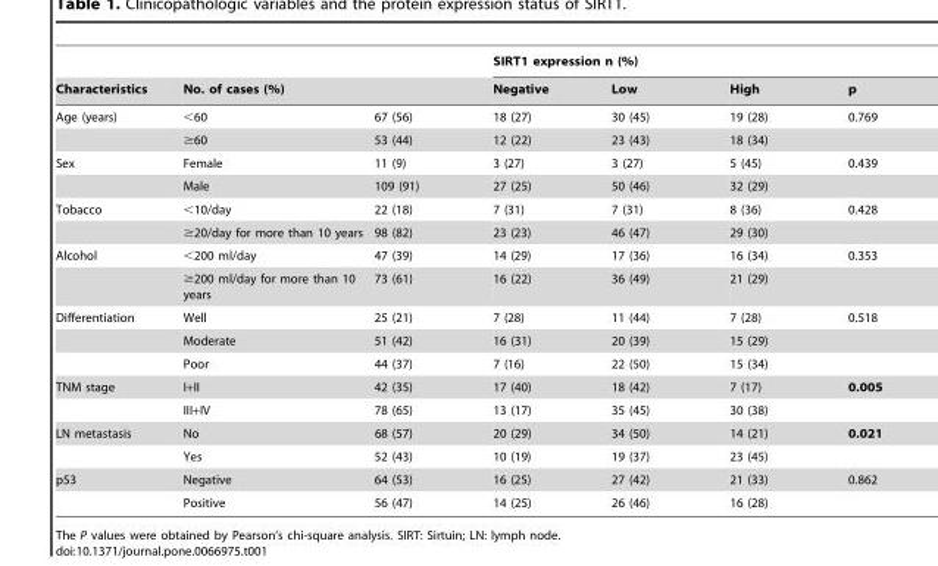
<table><thead><tr><td rowspan="2">Characteristics</td><td></td><td></td><td colspan="4">SIRT1 expression n (%)</td></tr><tr><td colspan="2">No. of cases (%)</td><td>Negative</td><td>Low</td><td>High</td><td>p</td></tr></thead><tbody><tr><td rowspan="2">Age (years)</td><td>&lt;60</td><td>67 (56)</td><td>18 (27)</td><td>30 (45)</td><td>19 (28)</td><td>0.769</td></tr><tr><td>≥60</td><td>53 (44)</td><td>12 (22)</td><td>23 (43)</td><td>18 (34)</td><td></td></tr><tr><td rowspan="2">Sex</td><td>Female</td><td>11 (9)</td><td>3 (27)</td><td>3 (27)</td><td>5 (45)</td><td>0.439</td></tr><tr><td>Male</td><td>109 (91)</td><td>27 (25)</td><td>50 (46)</td><td>32 (29)</td><td></td></tr><tr><td rowspan="2">Tobacco</td><td>&lt;10/day</td><td>22 (18)</td><td>7 (31)</td><td>7 (31)</td><td>8 (36)</td><td>0.428</td></tr><tr><td>≥20/day for more than 10 years</td><td>98 (82)</td><td>23 (23)</td><td>46 (47)</td><td>29 (30)</td><td></td></tr><tr><td rowspan="2">Alcohol</td><td>&lt;200 ml/day</td><td>47 (39)</td><td>14 (29)</td><td>17 (36)</td><td>16 (34)</td><td>0.353</td></tr><tr><td>≥200 ml/day for more than 10 years</td><td>73 (61)</td><td>16 (22)</td><td>36 (49)</td><td>21 (29)</td><td></td></tr><tr><td rowspan="3">Differentiation</td><td>Well</td><td>25 (21)</td><td>7 (28)</td><td>11 (44)</td><td>7 (28)</td><td>0.518</td></tr><tr><td>Moderate</td><td>51 (42)</td><td>16 (31)</td><td>20 (39)</td><td>15 (29)</td><td></td></tr><tr><td>Poor</td><td>44 (37)</td><td>7 (16)</td><td>22 (50)</td><td>15 (34)</td><td></td></tr><tr><td rowspan="2">TNM stage</td><td>I+II</td><td>42 (35)</td><td>17 (40)</td><td>18 (42)</td><td>7 (17)</td><td>0.005</td></tr><tr><td>III+IV</td><td>78 (65)</td><td>13 (17)</td><td>35 (45)</td><td>30 (38)</td><td></td></tr><tr><td rowspan="2">LN metastasis</td><td>No</td><td>68 (57)</td><td>20 (29)</td><td>34 (50)</td><td>14 (21)</td><td>0.021</td></tr><tr><td>Yes</td><td>52 (43)</td><td>10 (19)</td><td>19 (37)</td><td>23 (45)</td><td></td></tr><tr><td rowspan="2">p53</td><td>Negative</td><td>64 (53)</td><td>16 (25)</td><td>27 (42)</td><td>21 (33)</td><td>0.862</td></tr><tr><td>Positive</td><td>56 (47)</td><td>14 (25)</td><td>26 (46)</td><td>16 (28)</td><td></td></tr></tbody></table>